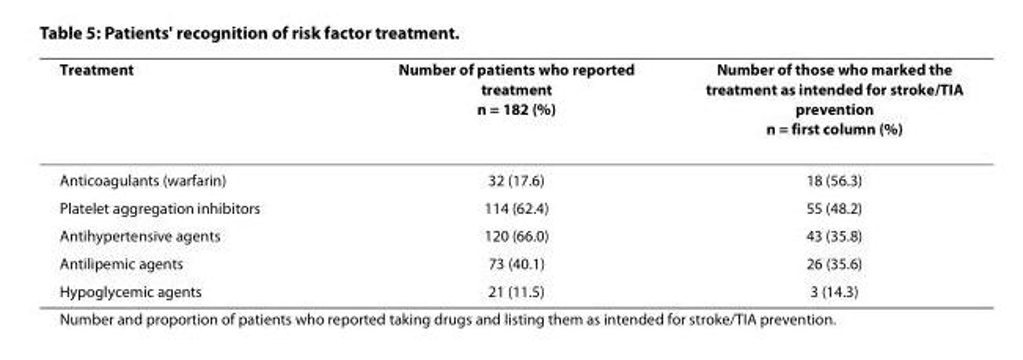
<table><thead><tr><td>Treatment</td><td>Number of patients who reported treatment n = 182 (%)</td><td>Number of those who marked the treatment as intended for stroke/TIA prevention n = first column (%)</td></tr></thead><tbody><tr><td>Anticoagulants (warfarin)</td><td>32 (17.6)</td><td>18 (56.3)</td></tr><tr><td>Platelet aggregation inhibitors</td><td>114 (62.4)</td><td>55 (48.2)</td></tr><tr><td>Antihypertensive agents</td><td>120 (66.0)</td><td>43 (35.8)</td></tr><tr><td>Antilipemic agents</td><td>73 (40.1)</td><td>26 (35.6)</td></tr><tr><td>Hypoglycemic agents</td><td>21 (11.5)</td><td>3 (14.3)</td></tr></tbody></table>